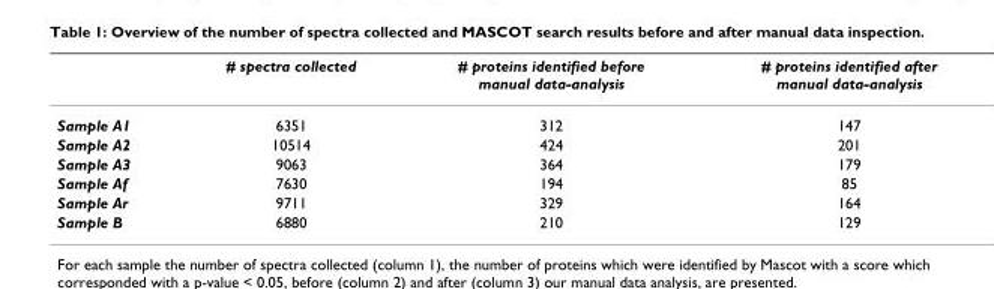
<table><thead><tr><td></td><td># spectra collected</td><td># proteins identified before manual data-analysis</td><td># proteins identified after manual data-analysis</td></tr></thead><tbody><tr><td>Sample A1</td><td>6351</td><td>312</td><td>147</td></tr><tr><td>Sample A2</td><td>10514</td><td>424</td><td>201</td></tr><tr><td>Sample A3</td><td>9063</td><td>364</td><td>179</td></tr><tr><td>Sample Af</td><td>7630</td><td>194</td><td>85</td></tr><tr><td>Sample Ar</td><td>9711</td><td>329</td><td>164</td></tr><tr><td>Sample B</td><td>6880</td><td>210</td><td>129</td></tr></tbody></table>